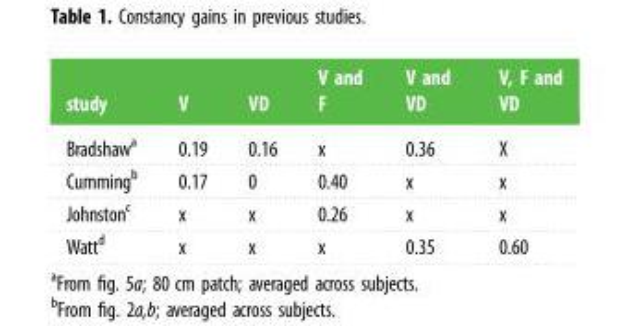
<table><thead><tr><td>study</td><td>V</td><td>VD</td><td>V and F</td><td>V and VD</td><td>V, F and VD</td></tr></thead><tbody><tr><td>Bradshaw<sup>a</sup></td><td>0.19</td><td>0.16</td><td>x</td><td>0.36</td><td>X</td></tr><tr><td>Cumming<sup>b</sup></td><td>0.17</td><td>0</td><td>0.40</td><td>x</td><td>x</td></tr><tr><td>Johnston<sup>c</sup></td><td>x</td><td>x</td><td>0.26</td><td>x</td><td>x</td></tr><tr><td>Watt<sup>d</sup></td><td>x</td><td>x</td><td>x</td><td>0.35</td><td>0.60</td></tr></tbody></table>